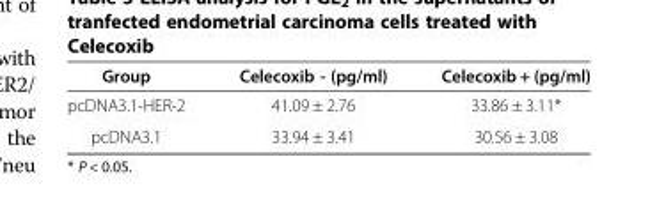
<table><thead><tr><td>Group</td><td>Celecoxib - (pg/ml)</td><td>Celecoxib + (pg/ml)</td></tr></thead><tbody><tr><td>pcDNA3.1-HER-2</td><td>41.09 ± 2.76</td><td>33.86 ± 3.11*</td></tr><tr><td>pcDNA3.1</td><td>33.94 ± 3.41</td><td>30.56 ± 3.08</td></tr></tbody></table>